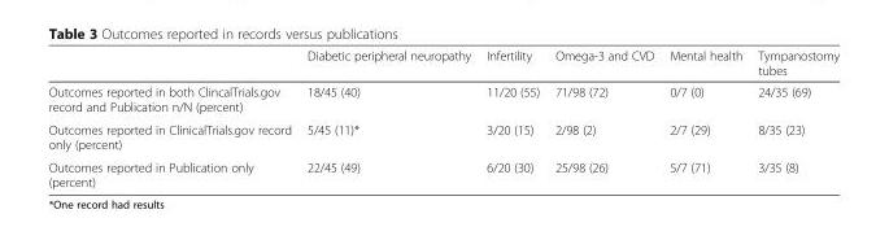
<table><thead><tr><td></td><td>Diabetic peripheral neuropathy</td><td>Infertility</td><td>Omega-3 and CVD</td><td>Mental health</td><td>Tympanostomy tubes</td></tr></thead><tbody><tr><td>Outcomes reported in both ClincalTrials.gov record and Publication n/N (percent)</td><td>18/45 (40)</td><td>11/20 (55)</td><td>71/98 (72)</td><td>0/7 (0)</td><td>24/35 (69)</td></tr><tr><td>Outcomes reported in ClinicalTrials.gov record only (percent)</td><td>5/45 (11)*</td><td>3/20 (15)</td><td>2/98 (2)</td><td>2/7 (29)</td><td>8/35 (23)</td></tr><tr><td>Outcomes reported in Publication only (percent)</td><td>22/45 (49)</td><td>6/20 (30)</td><td>25/98 (26)</td><td>5/7 (71)</td><td>3/35 (8)</td></tr></tbody></table>